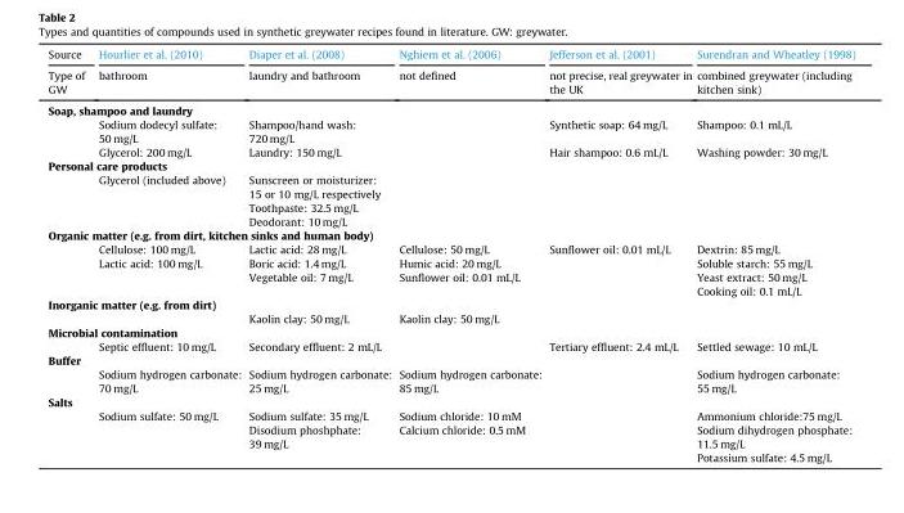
<table><thead><tr><td rowspan="2">Source Type of GW</td><td rowspan="2">Hourlier et al. (2010) bathroom</td><td rowspan="2">Diaper et al. (2008) laundry and bathroom</td><td rowspan="2">Nghiem et al. (2006) not defined</td><td rowspan="2">Jefferson et al. (2001) not precise, real greywater in the UK</td><td rowspan="2">Surendran and Wheatley (1998) combined greywater (including kitchen sink)</td></tr><tr></tr></thead><tbody><tr><td colspan="6">Soap, shampoo and laundry</td></tr><tr><td rowspan="2"></td><td>Sodium dodecyl sulfate: 50 mg/L</td><td>Shampoo/hand wash: 720 mg/L</td><td rowspan="2"></td><td>Synthetic soap: 64 mg/L</td><td>Shampoo: 0.1 mL/L</td></tr><tr><td>Glycerol: 200 mg/L</td><td>Laundry: 150 mg/L</td><td>Hair shampoo: 0.6 mL/L</td><td>Washing powder: 30 mg/L</td></tr><tr><td colspan="6">Personal care products</td></tr><tr><td rowspan="3"></td><td rowspan="3">Glycerol (included above)</td><td>Sunscreen or moisturizer: 15 or 10 mg/L respectively</td><td rowspan="3"></td><td rowspan="3"></td><td rowspan="3"></td></tr><tr><td>Toothpaste: 32.5 mg/L</td></tr><tr><td>Deodorant: 10 mg/L</td></tr><tr><td colspan="6">Organic matter (e.g. from dirt, kitchen sinks and human body)</td></tr><tr><td rowspan="4"></td><td>Cellulose: 100 mg/L</td><td>Lactic acid: 28 mg/L</td><td>Cellulose: 50 mg/L</td><td rowspan="4">Sunflower oil: 0.01 mL/L</td><td>Dextrin: 85 mg/L</td></tr><tr><td rowspan="3">Lactic acid: 100 mg/L</td><td>Boric acid: 1.4 mg/L</td><td>Humic acid: 20 mg/L</td><td>Soluble starch: 55 mg/L</td></tr><tr><td rowspan="2">Vegetable oil: 7 mg/L</td><td rowspan="2">Sunflower oil: 0.01 mL/L</td><td>Yeast extract: 50 mg/L</td></tr><tr><td>Cooking oil: 0.1 mL/L</td></tr><tr><td colspan="6">Inorganic matter (e.g. from dirt)</td></tr><tr><td></td><td></td><td>Kaolin clay: 50 mg/L</td><td>Kaolin clay: 50 mg/L</td><td></td><td></td></tr><tr><td colspan="6">Microbial contamination</td></tr><tr><td></td><td>Septic effluent: 10 mg/L</td><td>Secondary effluent: 2 mL/L</td><td></td><td>Tertiary effluent: 2.4 mL/L</td><td>Settled sewage: 10 mL/L</td></tr><tr><td colspan="6">Buffer</td></tr><tr><td></td><td>Sodium hydrogen carbonate: 70 mg/L</td><td>Sodium hydrogen carbonate: 25 mg/L</td><td>Sodium hydrogen carbonate: 85 mg/L</td><td></td><td>Sodium hydrogen carbonate: 55 mg/L</td></tr><tr><td colspan="6">Salts</td></tr><tr><td rowspan="3"></td><td rowspan="3">Sodium sulfate: 50 mg/L</td><td>Sodium sulfate: 35 mg/L</td><td>Sodium chloride: 10 mM</td><td rowspan="3"></td><td>Ammonium chloride:75 mg/L</td></tr><tr><td rowspan="2">Disodium phoshphate: 39 mg/L</td><td rowspan="2">Calcium chloride: 0.5 mM</td><td>Sodium dihydrogen phosphate: 11.5 mg/L</td></tr><tr><td>Potassium sulfate: 4.5 mg/L</td></tr></tbody></table>